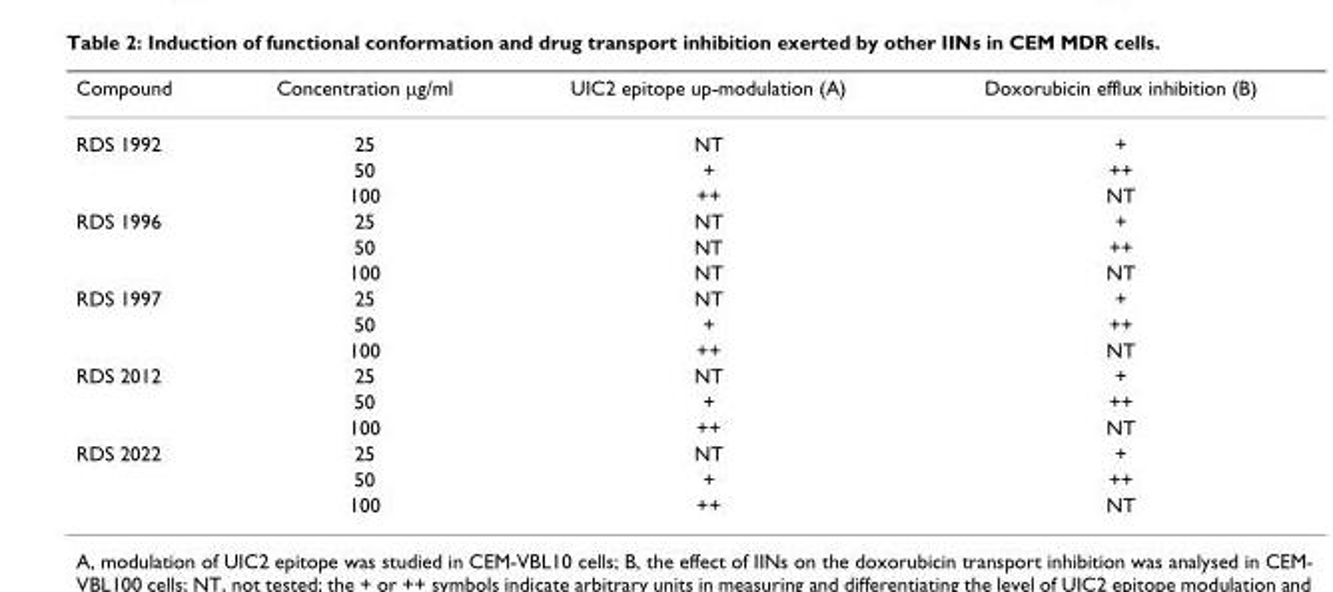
<table><thead><tr><td>Compound</td><td>Concentration µg/ml</td><td>UIC2 epitope up-modulation (A)</td><td>Doxorubicin efflux inhibition (B)</td></tr></thead><tbody><tr><td rowspan="3">RDS 1992</td><td>25</td><td>NT</td><td>+</td></tr><tr><td>50</td><td>+</td><td>++</td></tr><tr><td>100</td><td>++</td><td>NT</td></tr><tr><td rowspan="3">RDS 1996</td><td>25</td><td>NT</td><td>+</td></tr><tr><td>50</td><td>NT</td><td>++</td></tr><tr><td>100</td><td>NT</td><td>NT</td></tr><tr><td rowspan="3">RDS 1997</td><td>25</td><td>NT</td><td>+</td></tr><tr><td>50</td><td>+</td><td>++</td></tr><tr><td>100</td><td>++</td><td>NT</td></tr><tr><td rowspan="3">RDS 2012</td><td>25</td><td>NT</td><td>+</td></tr><tr><td>50</td><td>+</td><td>++</td></tr><tr><td>100</td><td>++</td><td>NT</td></tr><tr><td rowspan="3">RDS 2022</td><td>25</td><td>NT</td><td>+</td></tr><tr><td>50</td><td>+</td><td>++</td></tr><tr><td>100</td><td>++</td><td>NT</td></tr></tbody></table>